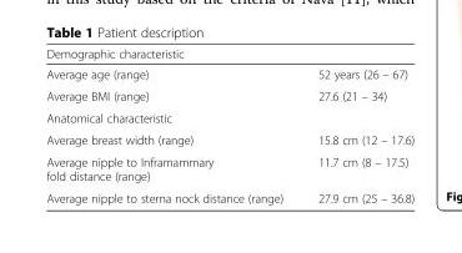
<table><thead><tr><td colspan="2">Demographic characteristic</td></tr><tr><td>Average age (range)</td><td>52 years (26 – 67)</td></tr></thead><tbody><tr><td>Average BMI (range)</td><td>27.6 (21 – 34)</td></tr><tr><td colspan="2">Anatomical characteristic</td></tr><tr><td>Average breast width (range)</td><td>15.8 cm (12 – 17.6)</td></tr><tr><td>Average nipple to Inframammary fold distance (range)</td><td>11.7 cm (8 – 17.5)</td></tr><tr><td>Average nipple to sterna nock distance (range)</td><td>27.9 cm (25 – 36.8)</td></tr></tbody></table>